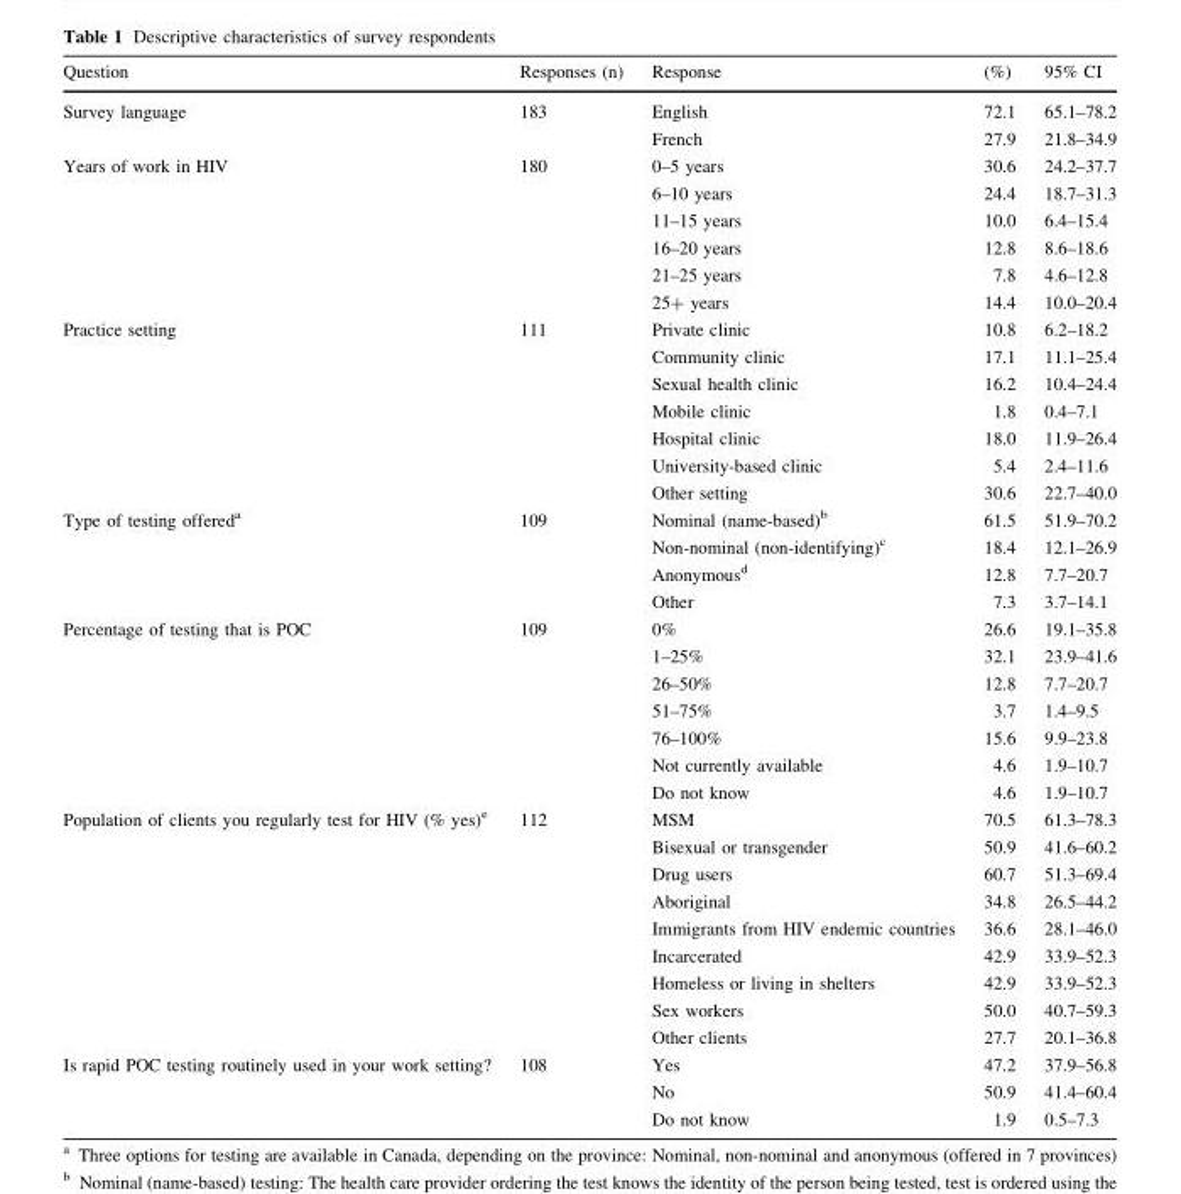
<table><thead><tr><td>Question</td><td>Responses (n)</td><td>Response</td><td>(%)</td><td>95% CI</td></tr></thead><tbody><tr><td rowspan="2">Survey language</td><td rowspan="2">183</td><td>English</td><td>72.1</td><td>65.1–78.2</td></tr><tr><td>French</td><td>27.9</td><td>21.8–34.9</td></tr><tr><td rowspan="6">Years of work in HIV</td><td rowspan="6">180</td><td>0–5 years</td><td>30.6</td><td>24.2–37.7</td></tr><tr><td>6–10 years</td><td>24.4</td><td>18.7–31.3</td></tr><tr><td>11–15 years</td><td>10.0</td><td>6.4–15.4</td></tr><tr><td>16–20 years</td><td>12.8</td><td>8.6–18.6</td></tr><tr><td>21–25 years</td><td>7.8</td><td>4.6–12.8</td></tr><tr><td>25+ years</td><td>14.4</td><td>10.0–20.4</td></tr><tr><td rowspan="7">Practice setting</td><td rowspan="7">111</td><td>Private clinic</td><td>10.8</td><td>6.2–18.2</td></tr><tr><td>Community clinic</td><td>17.1</td><td>11.1–25.4</td></tr><tr><td>Sexual health clinic</td><td>16.2</td><td>10.4–24.4</td></tr><tr><td>Mobile clinic</td><td>1.8</td><td>0.4–7.1</td></tr><tr><td>Hospital clinic</td><td>18.0</td><td>11.9–26.4</td></tr><tr><td>University-based clinic</td><td>5.4</td><td>2.4–11.6</td></tr><tr><td>Other setting</td><td>30.6</td><td>22.7–40.0</td></tr><tr><td rowspan="4">Type of testing offered<sup>a</sup></td><td rowspan="4">109</td><td>Nominal (name-based)<sup>b</sup></td><td>61.5</td><td>51.9–70.2</td></tr><tr><td>Non-nominal (non-identifying)<sup>c</sup></td><td>18.4</td><td>12.1–26.9</td></tr><tr><td>Anonymous<sup>d</sup></td><td>12.8</td><td>7.7–20.7</td></tr><tr><td>Other</td><td>7.3</td><td>3.7–14.1</td></tr><tr><td rowspan="7">Percentage of testing that is POC</td><td rowspan="7">109</td><td>0%</td><td>26.6</td><td>19.1–35.8</td></tr><tr><td>1–25%</td><td>32.1</td><td>23.9–41.6</td></tr><tr><td>26–50%</td><td>12.8</td><td>7.7–20.7</td></tr><tr><td>51–75%</td><td>3.7</td><td>1.4–9.5</td></tr><tr><td>76–100%</td><td>15.6</td><td>9.9–23.8</td></tr><tr><td>Not currently available</td><td>4.6</td><td>1.9–10.7</td></tr><tr><td>Do not know</td><td>4.6</td><td>1.9–10.7</td></tr><tr><td rowspan="9">Population of clients you regularly test for HIV (% yes)<sup>e</sup></td><td rowspan="9">112</td><td>MSM</td><td>70.5</td><td>61.3–78.3</td></tr><tr><td>Bisexual or transgender</td><td>50.9</td><td>41.6–60.2</td></tr><tr><td>Drug users</td><td>60.7</td><td>51.3–69.4</td></tr><tr><td>Aboriginal</td><td>34.8</td><td>26.5–44.2</td></tr><tr><td>Immigrants from HIV endemic countries</td><td>36.6</td><td>28.1–46.0</td></tr><tr><td>Incarcerated</td><td>42.9</td><td>33.9–52.3</td></tr><tr><td>Homeless or living in shelters</td><td>42.9</td><td>33.9–52.3</td></tr><tr><td>Sex workers</td><td>50.0</td><td>40.7–59.3</td></tr><tr><td>Other clients</td><td>27.7</td><td>20.1–36.8</td></tr><tr><td rowspan="3">Is rapid POC testing routinely used in your work setting?</td><td rowspan="3">108</td><td>Yes</td><td>47.2</td><td>37.9–56.8</td></tr><tr><td>No</td><td>50.9</td><td>41.4–60.4</td></tr><tr><td>Do not know</td><td>1.9</td><td>0.5–7.3</td></tr></tbody></table>